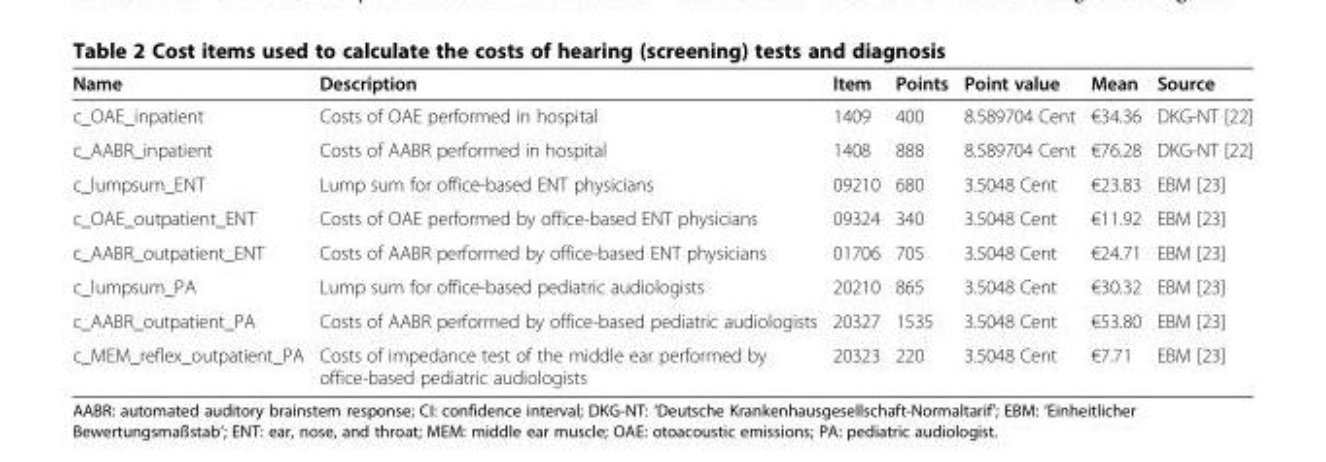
<table><thead><tr><td>Name</td><td>Description</td><td>Item</td><td>Points</td><td>Point value</td><td>Mean</td><td>Source</td></tr></thead><tbody><tr><td>c_OAE_inpatient</td><td>Costs of OAE performed in hospital</td><td>1409</td><td>400</td><td>8.589704 Cent</td><td>€34.36</td><td>DKG-NT [22]</td></tr><tr><td>c_AABR_inpatient</td><td>Costs of AABR performed in hospital</td><td>1408</td><td>888</td><td>8.589704 Cent</td><td>€76.28</td><td>DKG-NT [22]</td></tr><tr><td>c_lumpsum_ENT</td><td>Lump sum for office-based ENT physicians</td><td>09210</td><td>680</td><td>3.5048 Cent</td><td>€23.83</td><td>EBM [23]</td></tr><tr><td>c_OAE_outpatient_ENT</td><td>Costs of OAE performed by office-based ENT physicians</td><td>09324</td><td>340</td><td>3.5048 Cent</td><td>€11.92</td><td>EBM [23]</td></tr><tr><td>c_AABR_outpatient_ENT</td><td>Costs of AABR performed by office-based ENT physicians</td><td>01706</td><td>705</td><td>3.5048 Cent</td><td>€24.71</td><td>EBM [23]</td></tr><tr><td>c_lumpsum_PA</td><td>Lump sum for office-based pediatric audiologists</td><td>20210</td><td>865</td><td>3.5048 Cent</td><td>€30.32</td><td>EBM [23]</td></tr><tr><td>c_AABR_outpatient_PA</td><td>Costs of AABR performed by office-based pediatric audiologists</td><td>20327</td><td>1535</td><td>3.5048 Cent</td><td>€53.80</td><td>EBM [23]</td></tr><tr><td>c_MEM_reflex_outpatient_PA</td><td>Costs of impedance test of the middle ear performed by office-based pediatric audiologists</td><td>20323</td><td>220</td><td>3.5048 Cent</td><td>€7.71</td><td>EBM [23]</td></tr></tbody></table>